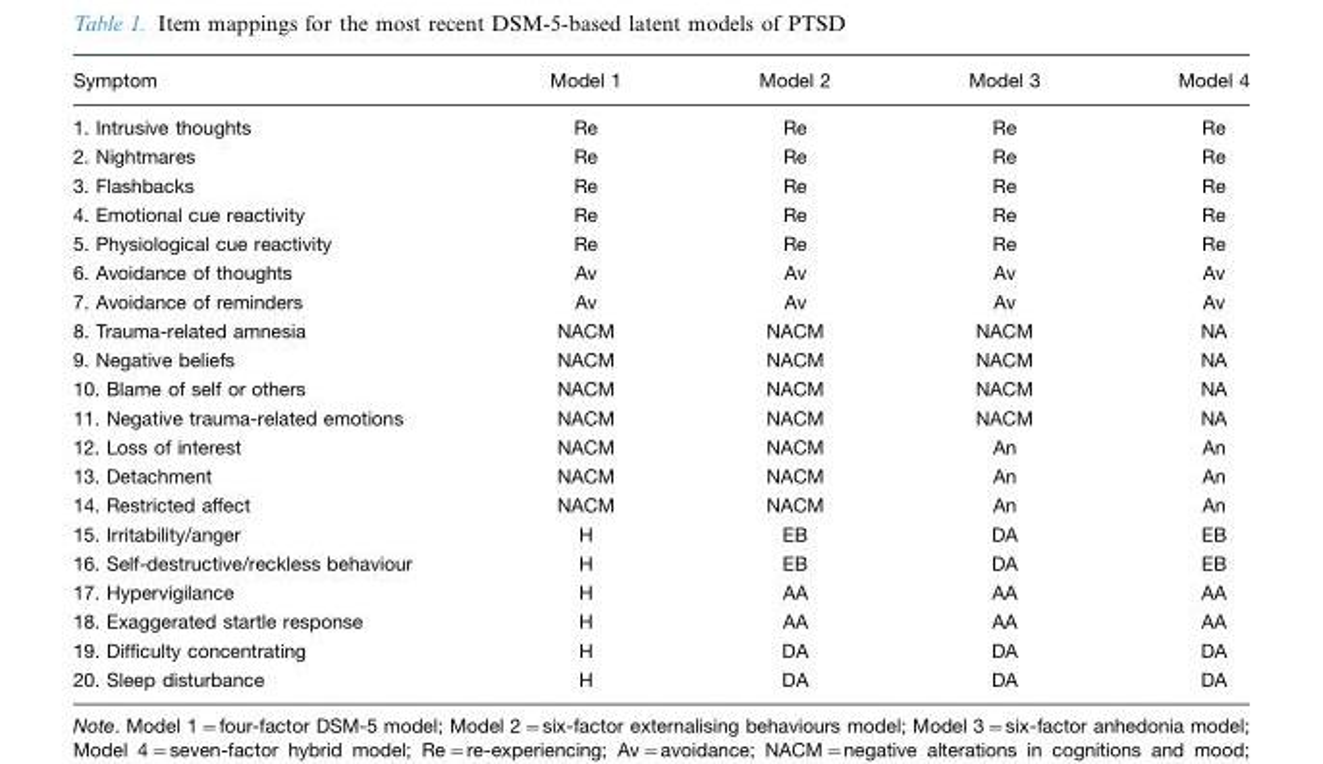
<table><thead><tr><td>Symptom</td><td>Model 1</td><td>Model 2</td><td>Model 3</td><td>Model 4</td></tr></thead><tbody><tr><td>1. Intrusive thoughts</td><td>Re</td><td>Re</td><td>Re</td><td>Re</td></tr><tr><td>2. Nightmares</td><td>Re</td><td>Re</td><td>Re</td><td>Re</td></tr><tr><td>3. Flashbacks</td><td>Re</td><td>Re</td><td>Re</td><td>Re</td></tr><tr><td>4. Emotional cue reactivity</td><td>Re</td><td>Re</td><td>Re</td><td>Re</td></tr><tr><td>5. Physiological cue reactivity</td><td>Re</td><td>Re</td><td>Re</td><td>Re</td></tr><tr><td>6. Avoidance of thoughts</td><td>Av</td><td>Av</td><td>Av</td><td>Av</td></tr><tr><td>7. Avoidance of reminders</td><td>Av</td><td>Av</td><td>Av</td><td>Av</td></tr><tr><td>8. Trauma-related amnesia</td><td>NACM</td><td>NACM</td><td>NACM</td><td>NA</td></tr><tr><td>9. Negative beliefs</td><td>NACM</td><td>NACM</td><td>NACM</td><td>NA</td></tr><tr><td>10. Blame of self or others</td><td>NACM</td><td>NACM</td><td>NACM</td><td>NA</td></tr><tr><td>11. Negative trauma-related emotions</td><td>NACM</td><td>NACM</td><td>NACM</td><td>NA</td></tr><tr><td>12. Loss of interest</td><td>NACM</td><td>NACM</td><td>An</td><td>An</td></tr><tr><td>13. Detachment</td><td>NACM</td><td>NACM</td><td>An</td><td>An</td></tr><tr><td>14. Restricted affect</td><td>NACM</td><td>NACM</td><td>An</td><td>An</td></tr><tr><td>15. Irritability/anger</td><td>H</td><td>EB</td><td>DA</td><td>EB</td></tr><tr><td>16. Self-destructive/reckless behaviour</td><td>H</td><td>EB</td><td>DA</td><td>EB</td></tr><tr><td>17. Hypervigilance</td><td>H</td><td>AA</td><td>AA</td><td>AA</td></tr><tr><td>18. Exaggerated startle response</td><td>H</td><td>AA</td><td>AA</td><td>AA</td></tr><tr><td>19. Difficulty concentrating</td><td>H</td><td>DA</td><td>DA</td><td>DA</td></tr><tr><td>20. Sleep disturbance</td><td>H</td><td>DA</td><td>DA</td><td>DA</td></tr></tbody></table>